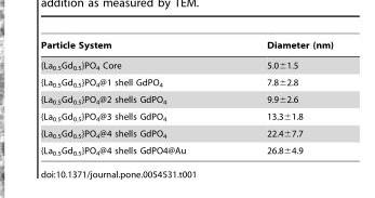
<table><thead><tr><td>Particle System</td><td>Diameter (nm)</td></tr></thead><tbody><tr><td>{La<sub>0.5</sub>Gd<sub>0.5</sub>}PO<sub>4</sub> Core</td><td>5.0±1.5</td></tr><tr><td>{La<sub>0.5</sub>Gd<sub>0.5</sub>}PO<sub>4</sub>@1 shell GdPO<sub>4</sub></td><td>7.8±2.8</td></tr><tr><td>{La<sub>0.5</sub>Gd<sub>0.5</sub>}PO<sub>4</sub>@2 shells GdPO<sub>4</sub></td><td>9.9±2.6</td></tr><tr><td>{La<sub>0.5</sub>Gd<sub>0.5</sub>}PO<sub>4</sub>@3 shells GdPO<sub>4</sub></td><td>13.3±1.8</td></tr><tr><td>{La<sub>0.5</sub>Gd<sub>0.5</sub>}PO<sub>4</sub>@4 shells GdPO<sub>4</sub></td><td>22.4±7.7</td></tr><tr><td>{La<sub>0.5</sub>Gd<sub>0.5</sub>}PO<sub>4</sub>@4 shells GdPO4@Au</td><td>26.8±4.9</td></tr></tbody></table>